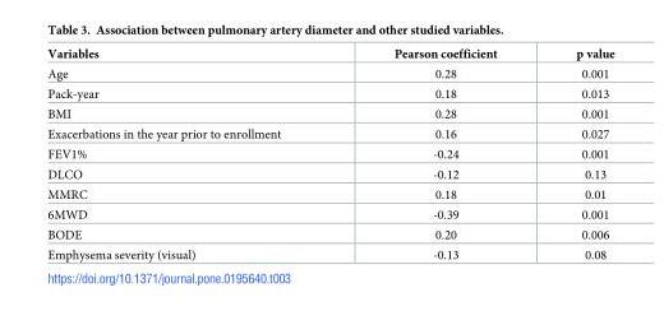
<table><thead><tr><td>Variables</td><td>Pearson coefficient</td><td>p value</td></tr></thead><tbody><tr><td>Age</td><td>0.28</td><td>0.001</td></tr><tr><td>Pack-year</td><td>0.18</td><td>0.013</td></tr><tr><td>BMI</td><td>0.28</td><td>0.001</td></tr><tr><td>Exacerbations in the year prior to enrollment</td><td>0.16</td><td>0.027</td></tr><tr><td>FEV1%</td><td>-0.24</td><td>0.001</td></tr><tr><td>DLCO</td><td>-0.12</td><td>0.13</td></tr><tr><td>MMRC</td><td>0.18</td><td>0.01</td></tr><tr><td>6MWD</td><td>-0.39</td><td>0.001</td></tr><tr><td>BODE</td><td>0.20</td><td>0.006</td></tr><tr><td>Emphysema severity (visual)</td><td>-0.13</td><td>0.08</td></tr></tbody></table>